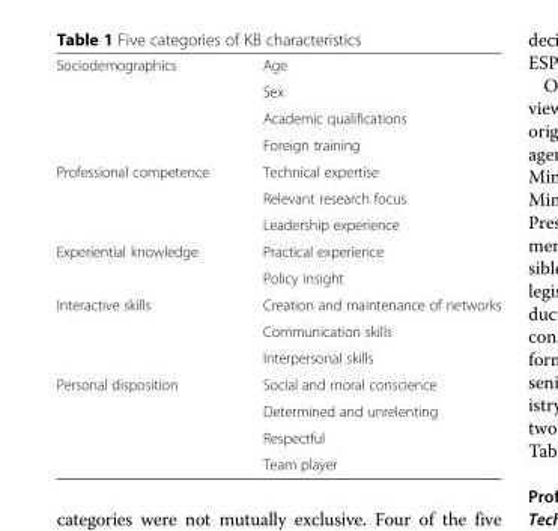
<table><tbody><tr><td rowspan="4">Sociodemographics</td><td>Age</td></tr><tr><td>Sex</td></tr><tr><td>Academic qualifications</td></tr><tr><td>Foreign training</td></tr><tr><td rowspan="3">Professional competence</td><td>Technical expertise</td></tr><tr><td>Relevant research focus</td></tr><tr><td>Leadership experience</td></tr><tr><td rowspan="2">Experiential knowledge</td><td>Practical experience</td></tr><tr><td>Policy insight</td></tr><tr><td rowspan="3">Interactive skills</td><td>Creation and maintenance of networks</td></tr><tr><td>Communication skills</td></tr><tr><td>Interpersonal skills</td></tr><tr><td rowspan="4">Personal disposition</td><td>Social and moral conscience</td></tr><tr><td>Determined and unrelenting</td></tr><tr><td>Respectful</td></tr><tr><td>Team player</td></tr></tbody></table>